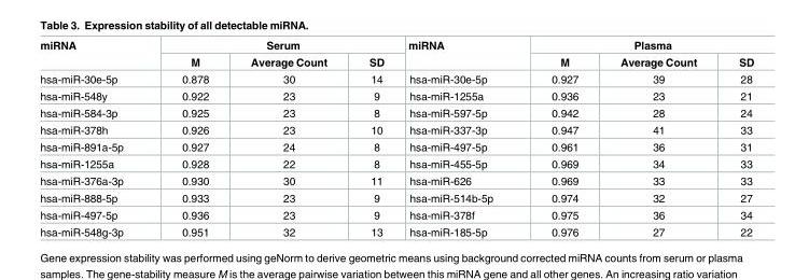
<table><thead><tr><td rowspan="2">miRNA</td><td colspan="3">Serum</td><td rowspan="2">miRNA</td><td colspan="3">Plasma</td></tr><tr><td>M</td><td>Average Count</td><td>SD</td><td>M</td><td>Average Count</td><td>SD</td></tr></thead><tbody><tr><td>hsa-miR-30e-5p</td><td>0.878</td><td>30</td><td>14</td><td>hsa-miR-30e-5p</td><td>0.927</td><td>39</td><td>28</td></tr><tr><td>hsa-miR-548y</td><td>0.922</td><td>23</td><td>9</td><td>hsa-miR-1255a</td><td>0.936</td><td>23</td><td>21</td></tr><tr><td>hsa-miR-584-3p</td><td>0.925</td><td>23</td><td>8</td><td>hsa-miR-597-5p</td><td>0.942</td><td>28</td><td>24</td></tr><tr><td>hsa-miR-378h</td><td>0.926</td><td>23</td><td>10</td><td>hsa-miR-337-3p</td><td>0.947</td><td>41</td><td>33</td></tr><tr><td>hsa-miR-891a-5p</td><td>0.927</td><td>24</td><td>8</td><td>hsa-miR-497-5p</td><td>0.961</td><td>36</td><td>31</td></tr><tr><td>hsa-miR-1255a</td><td>0.928</td><td>22</td><td>8</td><td>hsa-miR-455-5p</td><td>0.969</td><td>34</td><td>33</td></tr><tr><td>hsa-miR-376a-3p</td><td>0.930</td><td>30</td><td>11</td><td>hsa-miR-626</td><td>0.969</td><td>33</td><td>33</td></tr><tr><td>hsa-miR-888-5p</td><td>0.933</td><td>23</td><td>9</td><td>hsa-miR-514b-5p</td><td>0.974</td><td>32</td><td>27</td></tr><tr><td>hsa-miR-497-5p</td><td>0.936</td><td>23</td><td>9</td><td>hsa-miR-378f</td><td>0.975</td><td>36</td><td>34</td></tr><tr><td>hsa-miR-548g-3p</td><td>0.951</td><td>32</td><td>13</td><td>hsa-miR-185-5p</td><td>0.976</td><td>27</td><td>22</td></tr></tbody></table>